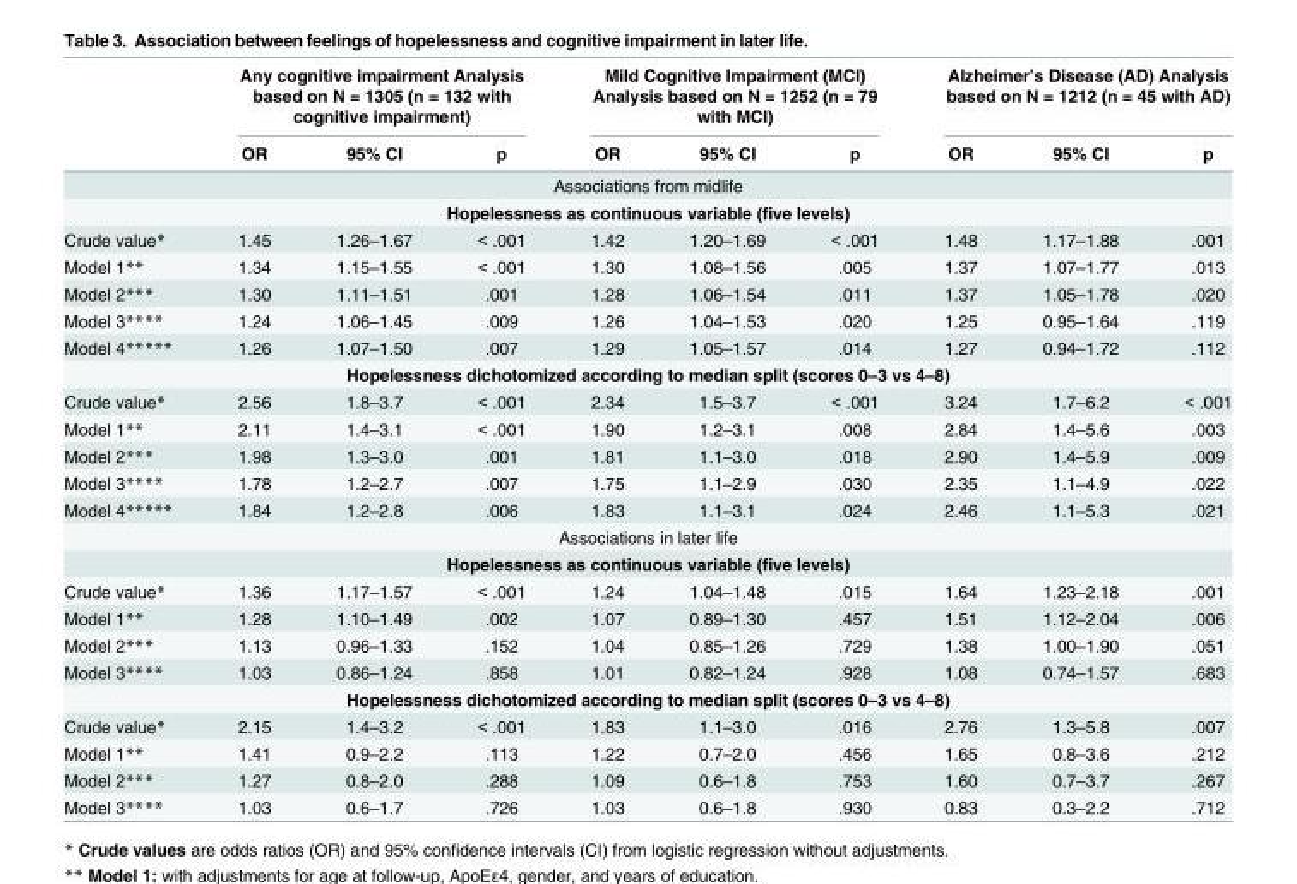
<table><thead><tr><td rowspan="2"></td><td colspan="3">Any cognitive impairment Analysis based on N = 1305 (n = 132 with cognitive impairment)</td><td colspan="3">Mild Cognitive Impairment (MCI) Analysis based on N = 1252 (n = 79 with MCI)</td><td colspan="3">Alzheimer’s Disease (AD) Analysis based on N = 1212 (n = 45 with AD)</td></tr><tr><td>OR</td><td>95% CI</td><td>p</td><td>OR</td><td>95% CI</td><td>p</td><td>OR</td><td>95% CI</td><td>p</td></tr></thead><tbody><tr><td colspan="10">Associations from midlife</td></tr><tr><td colspan="10">Hopelessness as continuous variable (five levels)</td></tr><tr><td>Crude value*</td><td>1.45</td><td>1.26–1.67</td><td>&lt; .001</td><td>1.42</td><td>1.20–1.69</td><td>&lt; .001</td><td>1.48</td><td>1.17–1.88</td><td>.001</td></tr><tr><td>Model 1**</td><td>1.34</td><td>1.15–1.55</td><td>&lt; .001</td><td>1.30</td><td>1.08–1.56</td><td>.005</td><td>1.37</td><td>1.07–1.77</td><td>.013</td></tr><tr><td>Model 2***</td><td>1.30</td><td>1.11–1.51</td><td>.001</td><td>1.28</td><td>1.06–1.54</td><td>.011</td><td>1.37</td><td>1.05–1.78</td><td>.020</td></tr><tr><td>Model 3****</td><td>1.24</td><td>1.06–1.45</td><td>.009</td><td>1.26</td><td>1.04–1.53</td><td>.020</td><td>1.25</td><td>0.95–1.64</td><td>.119</td></tr><tr><td>Model 4*****</td><td>1.26</td><td>1.07–1.50</td><td>.007</td><td>1.29</td><td>1.05–1.57</td><td>.014</td><td>1.27</td><td>0.94–1.72</td><td>.112</td></tr><tr><td colspan="10">Hopelessness dichotomized according to median split (scores 0–3 vs 4–8)</td></tr><tr><td>Crude value*</td><td>2.56</td><td>1.8–3.7</td><td>&lt; .001</td><td>2.34</td><td>1.5–3.7</td><td>&lt; .001</td><td>3.24</td><td>1.7–6.2</td><td>&lt; .001</td></tr><tr><td>Model 1**</td><td>2.11</td><td>1.4–3.1</td><td>&lt; .001</td><td>1.90</td><td>1.2–3.1</td><td>.008</td><td>2.84</td><td>1.4–5.6</td><td>.003</td></tr><tr><td>Model 2***</td><td>1.98</td><td>1.3–3.0</td><td>.001</td><td>1.81</td><td>1.1–3.0</td><td>.018</td><td>2.90</td><td>1.4–5.9</td><td>.009</td></tr><tr><td>Model 3****</td><td>1.78</td><td>1.2–2.7</td><td>.007</td><td>1.75</td><td>1.1–2.9</td><td>.030</td><td>2.35</td><td>1.1–4.9</td><td>.022</td></tr><tr><td>Model 4*****</td><td>1.84</td><td>1.2–2.8</td><td>.006</td><td>1.83</td><td>1.1–3.1</td><td>.024</td><td>2.46</td><td>1.1–5.3</td><td>.021</td></tr><tr><td colspan="10">Associations in later life</td></tr><tr><td colspan="10">Hopelessness as continuous variable (five levels)</td></tr><tr><td>Crude value*</td><td>1.36</td><td>1.17–1.57</td><td>&lt; .001</td><td>1.24</td><td>1.04–1.48</td><td>.015</td><td>1.64</td><td>1.23–2.18</td><td>.001</td></tr><tr><td>Model 1**</td><td>1.28</td><td>1.10–1.49</td><td>.002</td><td>1.07</td><td>0.89–1.30</td><td>.457</td><td>1.51</td><td>1.12–2.04</td><td>.006</td></tr><tr><td>Model 2***</td><td>1.13</td><td>0.96–1.33</td><td>.152</td><td>1.04</td><td>0.85–1.26</td><td>.729</td><td>1.38</td><td>1.00–1.90</td><td>.051</td></tr><tr><td>Model 3****</td><td>1.03</td><td>0.86–1.24</td><td>.858</td><td>1.01</td><td>0.82–1.24</td><td>.928</td><td>1.08</td><td>0.74–1.57</td><td>.683</td></tr><tr><td colspan="10">Hopelessness dichotomized according to median split (scores 0–3 vs 4–8)</td></tr><tr><td>Crude value*</td><td>2.15</td><td>1.4–3.2</td><td>&lt; .001</td><td>1.83</td><td>1.1–3.0</td><td>.016</td><td>2.76</td><td>1.3–5.8</td><td>.007</td></tr><tr><td>Model 1**</td><td>1.41</td><td>0.9–2.2</td><td>.113</td><td>1.22</td><td>0.7–2.0</td><td>.456</td><td>1.65</td><td>0.8–3.6</td><td>.212</td></tr><tr><td>Model 2***</td><td>1.27</td><td>0.8–2.0</td><td>.288</td><td>1.09</td><td>0.6–1.8</td><td>.753</td><td>1.60</td><td>0.7–3.7</td><td>.267</td></tr><tr><td>Model 3****</td><td>1.03</td><td>0.6–1.7</td><td>.726</td><td>1.03</td><td>0.6–1.8</td><td>.930</td><td>0.83</td><td>0.3–2.2</td><td>.712</td></tr></tbody></table>